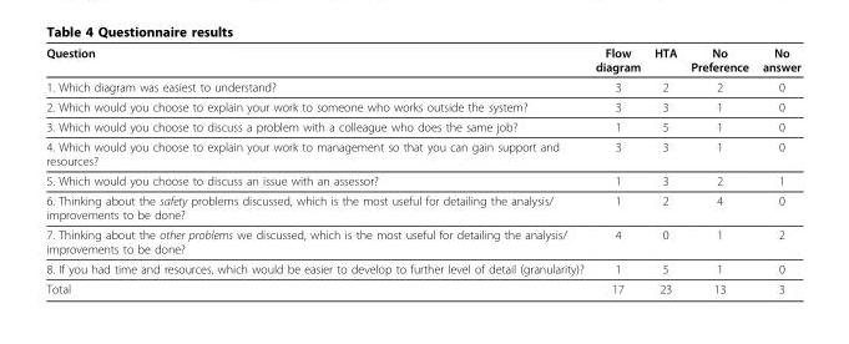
<table><thead><tr><td>Question</td><td>Flow diagram</td><td>HTA</td><td>No Preference</td><td>No answer</td></tr></thead><tbody><tr><td>1. Which diagram was easiest to understand?</td><td>3</td><td>2</td><td>2</td><td>0</td></tr><tr><td>2. Which would you choose to explain your work to someone who works outside the system?</td><td>3</td><td>3</td><td>1</td><td>0</td></tr><tr><td>3. Which would you choose to discuss a problem with a colleague who does the same job?</td><td>1</td><td>5</td><td>1</td><td>0</td></tr><tr><td>4. Which would you choose to explain your work to management so that you can gain support and resources?</td><td>3</td><td>3</td><td>1</td><td>0</td></tr><tr><td>5. Which would you choose to discuss an issue with an assessor?</td><td>1</td><td>3</td><td>2</td><td>1</td></tr><tr><td>6. Thinking about the safety problems discussed, which is the most useful for detailing the analysis/ improvements to be done?</td><td>1</td><td>2</td><td>4</td><td>0</td></tr><tr><td>7. Thinking about the other problems we discussed, which is the most useful for detailing the analysis/ improvements to be done?</td><td>4</td><td>0</td><td>1</td><td>2</td></tr><tr><td>8. If you had time and resources, which would be easier to develop to further level of detail (granularity)?</td><td>1</td><td>5</td><td>1</td><td>0</td></tr><tr><td>Total</td><td>17</td><td>23</td><td>13</td><td>3</td></tr></tbody></table>